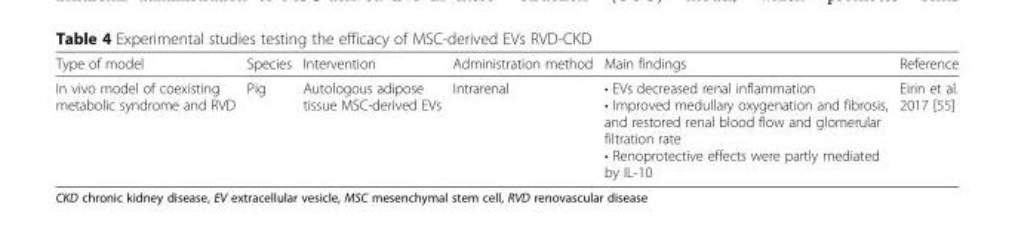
<table><thead><tr><td>Type of model</td><td>Species</td><td>Intervention</td><td>Administration method</td><td>Main findings</td><td>Reference</td></tr></thead><tbody><tr><td>In vivo model of coexisting metabolic syndrome and RVD</td><td>Pig</td><td>Autologous adipose tissue MSC-derived EVs</td><td>Intrarenal</td><td>• EVs decreased renal inflammation • Improved medullary oxygenation and fibrosis, and restored renal blood flow and glomerular filtration rate • Renoprotective effects were partly mediated by IL-10</td><td>Eirin et al. 2017 [55]</td></tr></tbody></table>